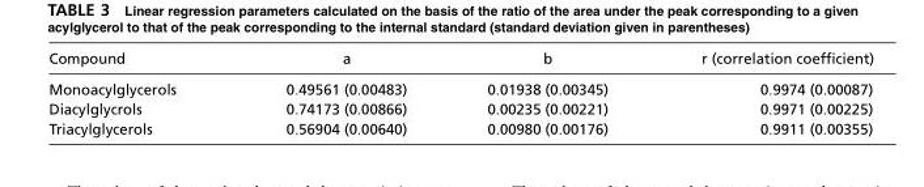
<table><thead><tr><td>Compound</td><td>a</td><td>b</td><td>r (correlation coefficient)</td></tr></thead><tbody><tr><td>Monoacylglycerols</td><td>0.49561 (0.00483)</td><td>0.01938 (0.00345)</td><td>0.9974 (0.00087)</td></tr><tr><td>Diacylglycrols</td><td>0.74173 (0.00866)</td><td>0.00235 (0.00221)</td><td>0.9971 (0.00225)</td></tr><tr><td>Triacylglycerols</td><td>0.56904 (0.00640)</td><td>0.00980 (0.00176)</td><td>0.9911 (0.00355)</td></tr></tbody></table>